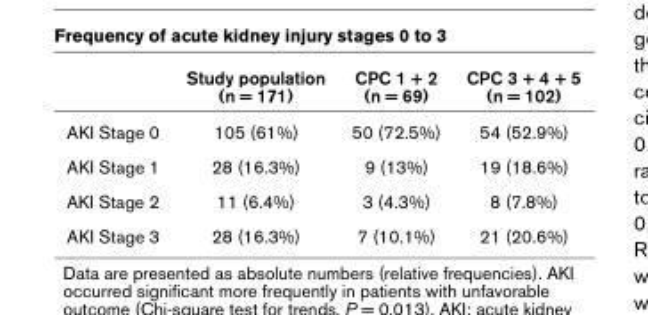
<table><thead><tr><td></td><td>Study population (n = 171)</td><td>CPC 1 + 2 (n = 69)</td><td>CPC 3 + 4 + 5 (n = 102)</td></tr></thead><tbody><tr><td>AKI Stage 0</td><td>105 (61%)</td><td>50 (72.5%)</td><td>54 (52.9%)</td></tr><tr><td>AKI Stage 1</td><td>28 (16.3%)</td><td>9 (13%)</td><td>19 (18.6%)</td></tr><tr><td>AKI Stage 2</td><td>11 (6.4%)</td><td>3 (4.3%)</td><td>8 (7.8%)</td></tr><tr><td>AKI Stage 3</td><td>28 (16.3%)</td><td>7 (10.1%)</td><td>21 (20.6%)</td></tr></tbody></table>